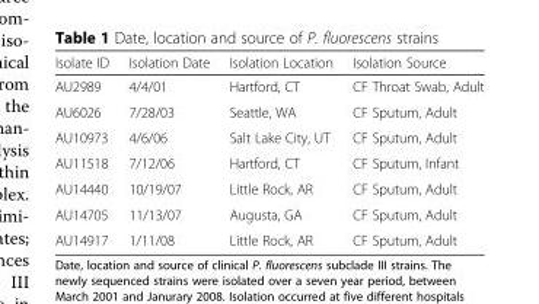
<table><thead><tr><td>Isolate ID</td><td>Isolation Date</td><td>Isolation Location</td><td>Isolation Source</td></tr></thead><tbody><tr><td>AU2989</td><td>4/4/01</td><td>Hartford, CT</td><td>CF Throat Swab, Adult</td></tr><tr><td>AU6026</td><td>7/28/03</td><td>Seattle, WA</td><td>CF Sputum, Adult</td></tr><tr><td>AU10973</td><td>4/6/06</td><td>Salt Lake City, UT</td><td>CF Sputum, Adult</td></tr><tr><td>AU11518</td><td>7/12/06</td><td>Hartford, CT</td><td>CF Sputum, Infant</td></tr><tr><td>AU14440</td><td>10/19/07</td><td>Little Rock, AR</td><td>CF Sputum, Adult</td></tr><tr><td>AU14705</td><td>11/13/07</td><td>Augusta, GA</td><td>CF Sputum, Adult</td></tr><tr><td>AU14917</td><td>1/11/08</td><td>Little Rock, AR</td><td>CF Sputum, Adult</td></tr></tbody></table>